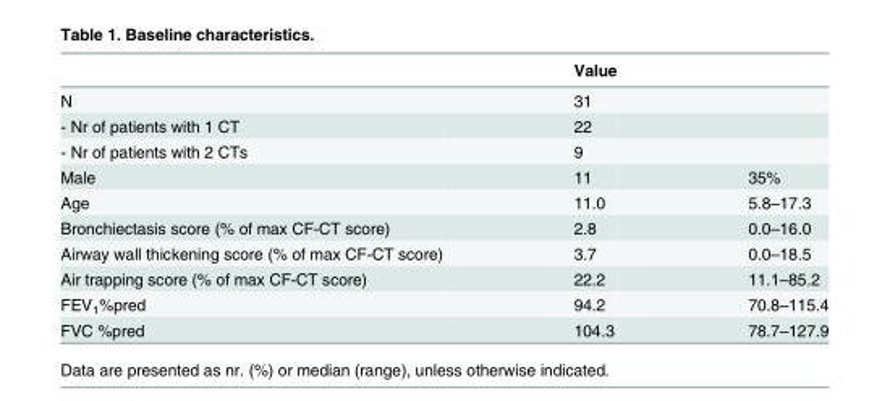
<table><thead><tr><td></td><td>Value</td><td></td></tr></thead><tbody><tr><td>N</td><td>31</td><td></td></tr><tr><td>- Nr of patients with 1 CT</td><td>22</td><td></td></tr><tr><td>- Nr of patients with 2 CTs</td><td>9</td><td></td></tr><tr><td>Male</td><td>11</td><td>35%</td></tr><tr><td>Age</td><td>11.0</td><td>5.8–17.3</td></tr><tr><td>Bronchiectasis score (% of max CF-CT score)</td><td>2.8</td><td>0.0–16.0</td></tr><tr><td>Airway wall thickening score (% of max CF-CT score)</td><td>3.7</td><td>0.0–18.5</td></tr><tr><td>Air trapping score (% of max CF-CT score)</td><td>22.2</td><td>11.1–85.2</td></tr><tr><td>FEV<sub>1</sub>%pred</td><td>94.2</td><td>70.8–115.4</td></tr><tr><td>FVC %pred</td><td>104.3</td><td>78.7–127.9</td></tr></tbody></table>